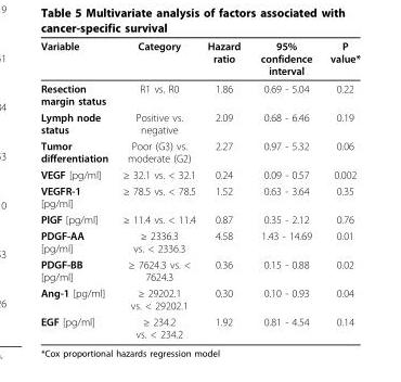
<table><thead><tr><td>Variable</td><td>Category</td><td>Hazard ratio</td><td>95% confidence interval</td><td>P value*</td></tr></thead><tbody><tr><td>Resection margin status</td><td>R1 vs. R0</td><td>1.86</td><td>0.69 - 5.04</td><td>0.22</td></tr><tr><td>Lymph node status</td><td>Positive vs. negative</td><td>2.09</td><td>0.68 - 6.46</td><td>0.19</td></tr><tr><td>Tumor differentiation</td><td>Poor (G3) vs. moderate (G2)</td><td>2.27</td><td>0.97 - 5.32</td><td>0.06</td></tr><tr><td>VEGF [pg/ml]</td><td>≥ 32.1 vs. &lt; 32.1</td><td>0.24</td><td>0.09 - 0.57</td><td>0.002</td></tr><tr><td>VEGFR-1 [pg/ml]</td><td>≥ 78.5 vs. &lt; 78.5</td><td>1.52</td><td>0.63 - 3.64</td><td>0.35</td></tr><tr><td>PlGF [pg/ml]</td><td>≥ 11.4 vs. &lt; 11.4</td><td>0.87</td><td>0.35 - 2.12</td><td>0.76</td></tr><tr><td>PDGF-AA [pg/ml]</td><td>≥ 2336.3 vs. &lt; 2336.3</td><td>4.58</td><td>1.43 - 14.69</td><td>0.01</td></tr><tr><td>PDGF-BB [pg/ml]</td><td>≥ 7624.3 vs. &lt; 7624.3</td><td>0.36</td><td>0.15 - 0.88</td><td>0.02</td></tr><tr><td>Ang-1 [pg/ml]</td><td>≥ 29202.1 vs. &lt; 29202.1</td><td>0.30</td><td>0.10 - 0.93</td><td>0.04</td></tr><tr><td>EGF [pg/ml]</td><td>≥ 234.2 vs. &lt; 234.2</td><td>1.92</td><td>0.81 - 4.54</td><td>0.14</td></tr></tbody></table>